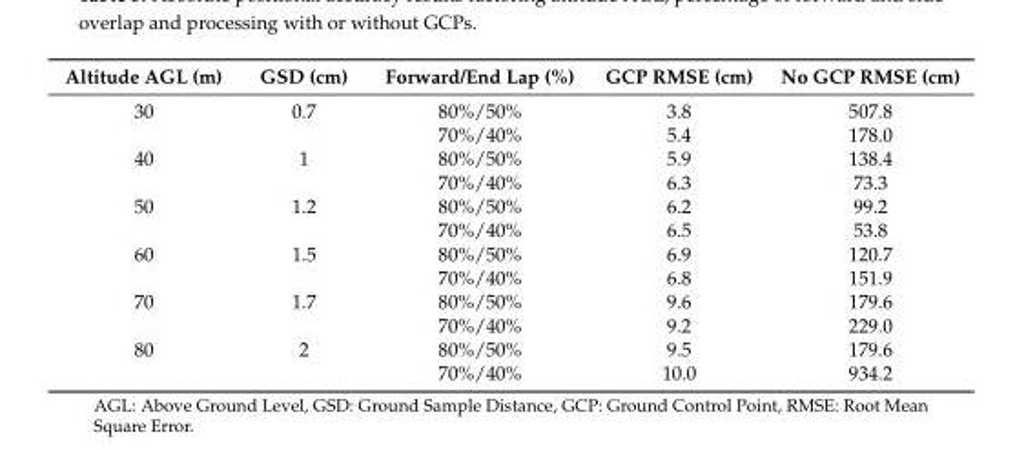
<table><thead><tr><td>Altitude AGL (m)</td><td>GSD (cm)</td><td>Forward/End Lap (%)</td><td>GCP RMSE (cm)</td><td>No GCP RMSE (cm)</td></tr></thead><tbody><tr><td rowspan="2">30</td><td>0.7</td><td>80%/50%</td><td>3.8</td><td>507.8</td></tr><tr><td></td><td>70%/40%</td><td>5.4</td><td>178.0</td></tr><tr><td rowspan="2">40</td><td>1</td><td>80%/50%</td><td>5.9</td><td>138.4</td></tr><tr><td></td><td>70%/40%</td><td>6.3</td><td>73.3</td></tr><tr><td rowspan="2">50</td><td>1.2</td><td>80%/50%</td><td>6.2</td><td>99.2</td></tr><tr><td></td><td>70%/40%</td><td>6.5</td><td>53.8</td></tr><tr><td rowspan="2">60</td><td>1.5</td><td>80%/50%</td><td>6.9</td><td>120.7</td></tr><tr><td></td><td>70%/40%</td><td>6.8</td><td>151.9</td></tr><tr><td rowspan="2">70</td><td>1.7</td><td>80%/50%</td><td>9.6</td><td>179.6</td></tr><tr><td></td><td>70%/40%</td><td>9.2</td><td>229.0</td></tr><tr><td rowspan="2">80</td><td>2</td><td>80%/50%</td><td>9.5</td><td>179.6</td></tr><tr><td></td><td>70%/40%</td><td>10.0</td><td>934.2</td></tr></tbody></table>